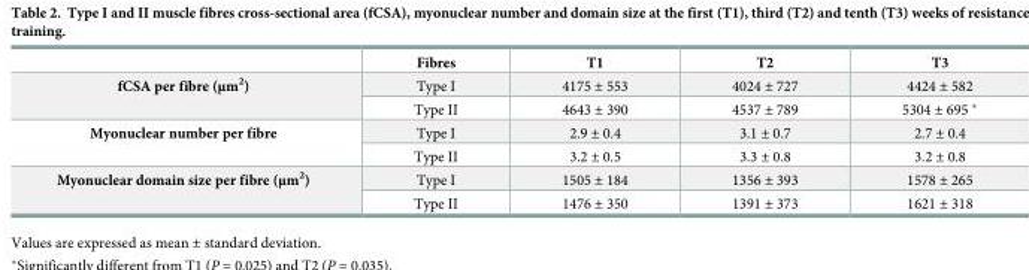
<table><thead><tr><td></td><td>Fibres</td><td>T1</td><td>T2</td><td>T3</td></tr></thead><tbody><tr><td rowspan="2">fCSA per fibre (μm<sup>2</sup>)</td><td>Type I</td><td>4175 ± 553</td><td>4024 ± 727</td><td>4424 ± 582</td></tr><tr><td>Type II</td><td>4643 ± 390</td><td>4537 ± 789</td><td>5304 ± 695</td></tr><tr><td rowspan="2">Myonuclear number per fibre</td><td>Type I</td><td>2.9 ± 0.4</td><td>3.1 ± 0.7</td><td>2.7 ± 0.4</td></tr><tr><td>Type II</td><td>3.2 ± 0.5</td><td>3.3 ± 0.8</td><td>3.2 ± 0.8</td></tr><tr><td rowspan="2">Myonuclear domain size per fibre (μm<sup>2</sup>)</td><td>Type I</td><td>1505 ± 184</td><td>1356 ± 393</td><td>1578 ± 265</td></tr><tr><td>Type II</td><td>1476 ± 350</td><td>1391 ± 373</td><td>1621 ± 318</td></tr></tbody></table>